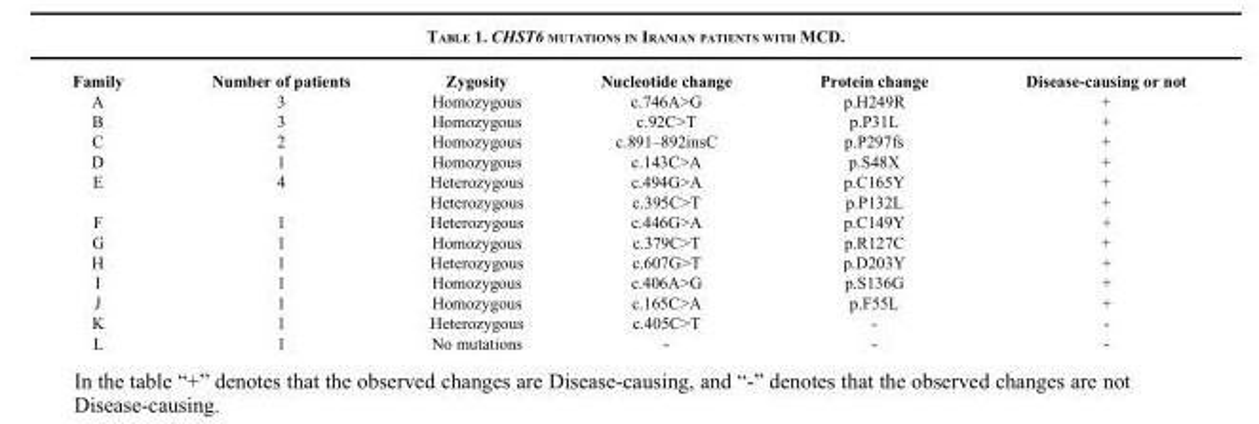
<table><thead><tr><td>Family</td><td>Number of patients</td><td>Zygosity</td><td>Nucleotide change</td><td>Protein change</td><td>Disease-causing or not</td></tr></thead><tbody><tr><td>A</td><td>3</td><td>Homozygous</td><td>c.746A&gt;G</td><td>p.H249R</td><td>+</td></tr><tr><td>B</td><td>3</td><td>Homozygous</td><td>c.92C&gt;T</td><td>p.P31L</td><td>+</td></tr><tr><td>C</td><td>2</td><td>Homozygous</td><td>c.891–892insC</td><td>p.P297fs</td><td>+</td></tr><tr><td>D</td><td>1</td><td>Homozygous</td><td>c.143C&gt;A</td><td>p.S48X</td><td>+</td></tr><tr><td rowspan="2">E</td><td>4</td><td>Heterozygous</td><td>c.494G&gt;A</td><td>p.C165Y</td><td>+</td></tr><tr><td></td><td>Heterozygous</td><td>c.395C&gt;T</td><td>p.P132L</td><td>+</td></tr><tr><td>F</td><td>1</td><td>Heterozygous</td><td>c.446G&gt;A</td><td>p.C149Y</td><td>+</td></tr><tr><td>G</td><td>1</td><td>Homozygous</td><td>c.379C&gt;T</td><td>p.R127C</td><td>+</td></tr><tr><td>H</td><td>1</td><td>Heterozygous</td><td>c.607G&gt;T</td><td>p.D203Y</td><td>+</td></tr><tr><td>I</td><td>1</td><td>Homozygous</td><td>c.406A&gt;G</td><td>p.S136G</td><td>+</td></tr><tr><td>J</td><td>1</td><td>Homozygous</td><td>c.165C&gt;A</td><td>p.F55L</td><td>+</td></tr><tr><td>K</td><td>1</td><td>Heterozygous</td><td>c.405C&gt;T</td><td>-</td><td>-</td></tr><tr><td>L</td><td>1</td><td>No mutations</td><td>-</td><td>-</td><td>-</td></tr></tbody></table>